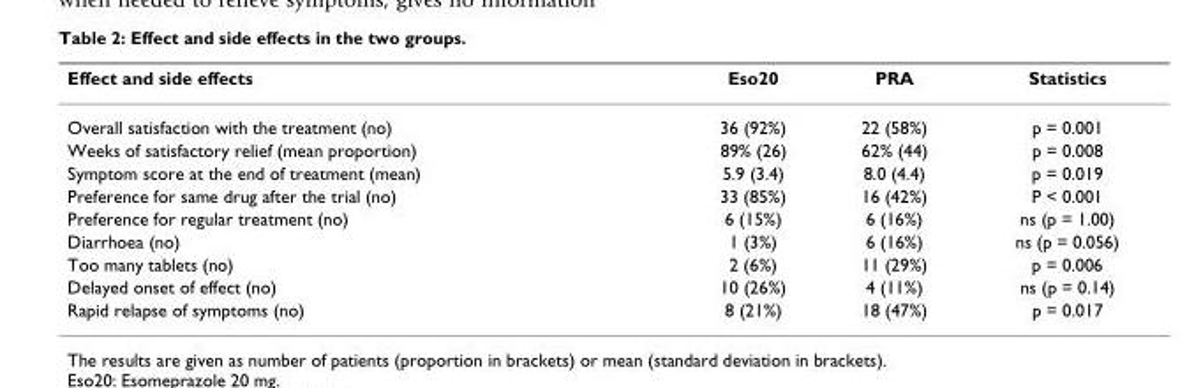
<table><thead><tr><td>Effect and side effects</td><td>Eso20</td><td>PRA</td><td>Statistics</td></tr></thead><tbody><tr><td>Overall satisfaction with the treatment (no)</td><td>36 (92%)</td><td>22 (58%)</td><td>p = 0.001</td></tr><tr><td>Weeks of satisfactory relief (mean proportion)</td><td>89% (26)</td><td>62% (44)</td><td>p = 0.008</td></tr><tr><td>Symptom score at the end of treatment (mean)</td><td>5.9 (3.4)</td><td>8.0 (4.4)</td><td>p = 0.019</td></tr><tr><td>Preference for same drug after the trial (no)</td><td>33 (85%)</td><td>16 (42%)</td><td>P &lt; 0.001</td></tr><tr><td>Preference for regular treatment (no)</td><td>6 (15%)</td><td>6 (16%)</td><td>ns (p = 1.00)</td></tr><tr><td>Diarrhoea (no)</td><td>1 (3%)</td><td>6 (16%)</td><td>ns (p = 0.056)</td></tr><tr><td>Too many tablets (no)</td><td>2 (6%)</td><td>11 (29%)</td><td>p = 0.006</td></tr><tr><td>Delayed onset of effect (no)</td><td>10 (26%)</td><td>4 (11%)</td><td>ns (p = 0.14)</td></tr><tr><td>Rapid relapse of symptoms (no)</td><td>8 (21%)</td><td>18 (47%)</td><td>p = 0.017</td></tr></tbody></table>